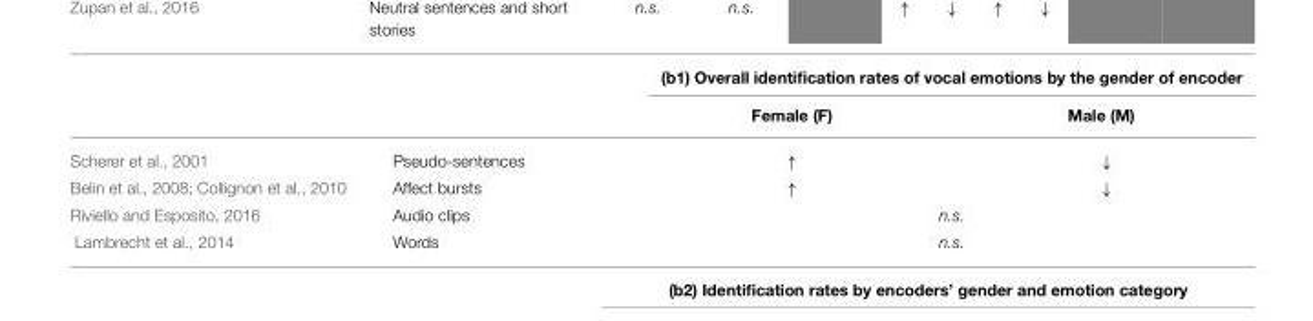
<table><thead><tr><td rowspan="2"></td><td rowspan="2"></td><td colspan="2">(b1) Overall identification rates of vocal emotions by the gender of encoder</td></tr><tr><td>Female (F)</td><td>Male (M)</td></tr></thead><tbody><tr><td>Scherer et al., 2001</td><td>Pseudo-sentences</td><td>↑</td><td>↓</td></tr><tr><td>Belin et al., 2008; Collignon et al., 2010</td><td>Affect bursts</td><td>↑</td><td>↓</td></tr><tr><td>Riviello and Esposito, 2016</td><td>Audio clips</td><td colspan="2">n.s.</td></tr><tr><td>Lambrecht et al., 2014</td><td>Words</td><td colspan="2">n.s.</td></tr></tbody></table>